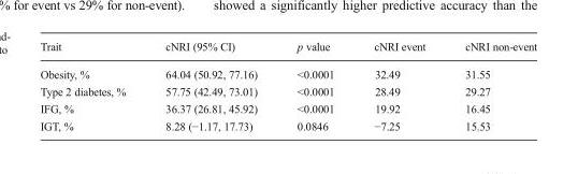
<table><thead><tr><td>Trait</td><td>cNRI (95% CI)</td><td>p value</td><td>cNRI event</td><td>cNRI non-event</td></tr></thead><tbody><tr><td>Obesity, %</td><td>64.04 (50.92, 77.16)</td><td>&lt;0.0001</td><td>32.49</td><td>31.55</td></tr><tr><td>Type 2 diabetes, %</td><td>57.75 (42.49, 73.01)</td><td>&lt;0.0001</td><td>28.49</td><td>29.27</td></tr><tr><td>IFG, %</td><td>36.37 (26.81, 45.92)</td><td>&lt;0.0001</td><td>19.92</td><td>16.45</td></tr><tr><td>IGT, %</td><td>8.28 (−1.17, 17.73)</td><td>0.0846</td><td>−7.25</td><td>15.53</td></tr></tbody></table>